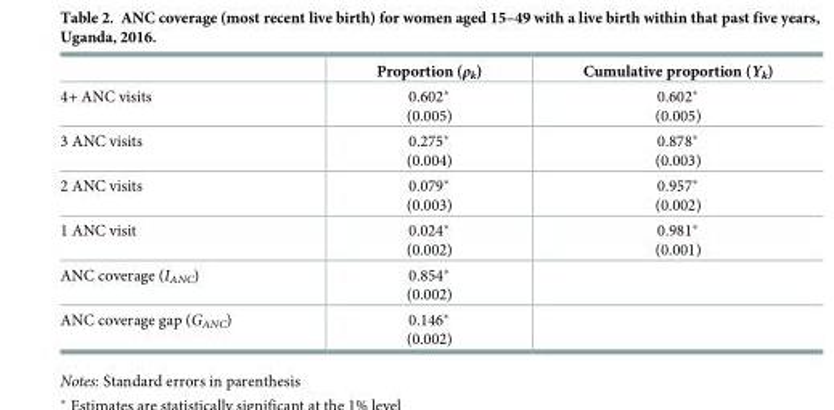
<table><thead><tr><td></td><td>Proportion (ρ<sub>k</sub>)</td><td>Cumulative proportion (Y<sub>k</sub>)</td></tr></thead><tbody><tr><td>4+ ANC visits</td><td>0.602* (0.005)</td><td>0.602* (0.005)</td></tr><tr><td>3 ANC visits</td><td>0.275* (0.004)</td><td>0.878* (0.003)</td></tr><tr><td>2 ANC visits</td><td>0.079* (0.003)</td><td>0.957* (0.002)</td></tr><tr><td>1 ANC visit</td><td>0.024* (0.002)</td><td>0.981* (0.001)</td></tr><tr><td>ANC coverage (I<sub>ANC</sub>)</td><td>0.854* (0.002)</td><td></td></tr><tr><td>ANC coverage gap (G<sub>ANC</sub>)</td><td>0.146* (0.002)</td><td></td></tr></tbody></table>